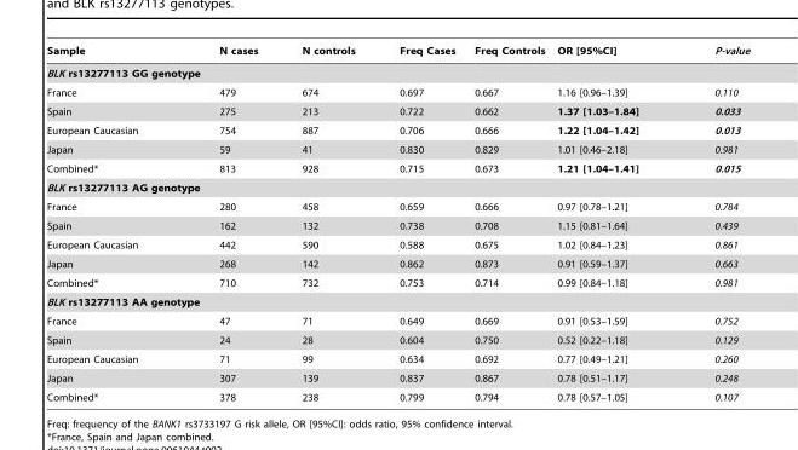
<table><thead><tr><td>Sample</td><td>N cases</td><td>N controls</td><td>Freq Cases</td><td>Freq Controls</td><td>OR [95%CI]</td><td>P-value</td></tr></thead><tbody><tr><td colspan="7">BLK rs13277113 GG genotype</td></tr><tr><td>France</td><td>479</td><td>674</td><td>0.697</td><td>0.667</td><td>1.16 [0.96–1.39]</td><td>0.110</td></tr><tr><td>Spain</td><td>275</td><td>213</td><td>0.722</td><td>0.662</td><td>1.37 [1.03–1.84]</td><td>0.033</td></tr><tr><td>European Caucasian</td><td>754</td><td>887</td><td>0.706</td><td>0.666</td><td>1.22 [1.04–1.42]</td><td>0.013</td></tr><tr><td>Japan</td><td>59</td><td>41</td><td>0.830</td><td>0.829</td><td>1.01 [0.46–2.18]</td><td>0.981</td></tr><tr><td>Combined*</td><td>813</td><td>928</td><td>0.715</td><td>0.673</td><td>1.21 [1.04–1.41]</td><td>0.015</td></tr><tr><td colspan="7">BLK rs13277113 AG genotype</td></tr><tr><td>France</td><td>280</td><td>458</td><td>0.659</td><td>0.666</td><td>0.97 [0.78–1.21]</td><td>0.784</td></tr><tr><td>Spain</td><td>162</td><td>132</td><td>0.738</td><td>0.708</td><td>1.15 [0.81–1.64]</td><td>0.439</td></tr><tr><td>European Caucasian</td><td>442</td><td>590</td><td>0.588</td><td>0.675</td><td>1.02 [0.84–1.23]</td><td>0.861</td></tr><tr><td>Japan</td><td>268</td><td>142</td><td>0.862</td><td>0.873</td><td>0.91 [0.59–1.37]</td><td>0.663</td></tr><tr><td>Combined*</td><td>710</td><td>732</td><td>0.753</td><td>0.714</td><td>0.99 [0.84–1.18]</td><td>0.981</td></tr><tr><td colspan="7">BLK rs13277113 AA genotype</td></tr><tr><td>France</td><td>47</td><td>71</td><td>0.649</td><td>0.669</td><td>0.91 [0.53–1.59]</td><td>0.752</td></tr><tr><td>Spain</td><td>24</td><td>28</td><td>0.604</td><td>0.750</td><td>0.52 [0.22–1.18]</td><td>0.129</td></tr><tr><td>European Caucasian</td><td>71</td><td>99</td><td>0.634</td><td>0.692</td><td>0.77 [0.49–1.21]</td><td>0.260</td></tr><tr><td>Japan</td><td>307</td><td>139</td><td>0.837</td><td>0.867</td><td>0.78 [0.51–1.17]</td><td>0.248</td></tr><tr><td>Combined*</td><td>378</td><td>238</td><td>0.799</td><td>0.794</td><td>0.78 [0.57–1.05]</td><td>0.107</td></tr></tbody></table>